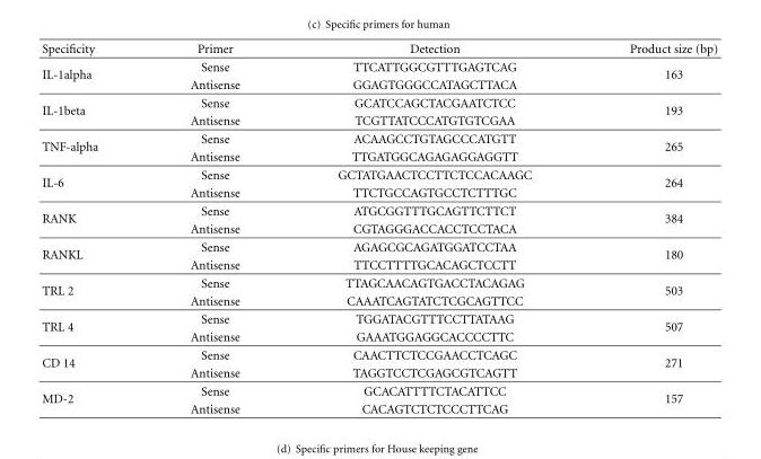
<table><thead><tr><td>Specificity</td><td>Primer</td><td>Detection</td><td>Product size (bp)</td></tr></thead><tbody><tr><td rowspan="2">IL-1alpha</td><td>Sense</td><td>TTCATTGGCGTTTGAGTCAG</td><td rowspan="2">163</td></tr><tr><td>Antisense</td><td>GGAGTGGGCCATAGCTTACA</td></tr><tr><td rowspan="2">IL-1beta</td><td>Sense</td><td>GCATCCAGCTACGAATCTCC</td><td rowspan="2">193</td></tr><tr><td>Antisense</td><td>TCGTTATCCCATGTGTCGAA</td></tr><tr><td rowspan="2">TNF-alpha</td><td>Sense</td><td>ACAAGCCTGTAGCCCATGTT</td><td rowspan="2">265</td></tr><tr><td>Antisense</td><td>TTGATGGCAGAGAGGAGGTT</td></tr><tr><td rowspan="2">IL-6</td><td>Sense</td><td>GCTATGAACTCCTTCTCCACAAGC</td><td rowspan="2">264</td></tr><tr><td>Antisense</td><td>TTCTGCCAGTGCCTCTTTGC</td></tr><tr><td rowspan="2">RANK</td><td>Sense</td><td>ATGCGGTTTGCAGTTCTTCT</td><td rowspan="2">384</td></tr><tr><td>Antisense</td><td>CGTAGGGACCACCTCCTACA</td></tr><tr><td rowspan="2">RANKL</td><td>Sense</td><td>AGAGCGCAGATGGATCCTAA</td><td rowspan="2">180</td></tr><tr><td>Antisense</td><td>TTCCTTTTGCACAGCTCCTT</td></tr><tr><td rowspan="2">TRL 2</td><td>Sense</td><td>TTAGCAACAGTGACCTACAGAG</td><td rowspan="2">503</td></tr><tr><td>Antisense</td><td>CAAATCAGTATCTCGCAGTTCC</td></tr><tr><td rowspan="2">TRL 4</td><td>Sense</td><td>TGGATACGTTTCCTTATAAG</td><td rowspan="2">507</td></tr><tr><td>Antisense</td><td>GAAATGGAGGCACCCCTTC</td></tr><tr><td rowspan="2">CD 14</td><td>Sense</td><td>CAACTTCTCCGAACCTCAGC</td><td rowspan="2">271</td></tr><tr><td>Antisense</td><td>TAGGTCCTCGAGCGTCAGTT</td></tr><tr><td rowspan="2">MD-2</td><td>Sense</td><td>GCACATTTTCTACATTCC</td><td rowspan="2">157</td></tr><tr><td>Antisense</td><td>CACAGTCTCTCCCTTCAG</td></tr></tbody></table>